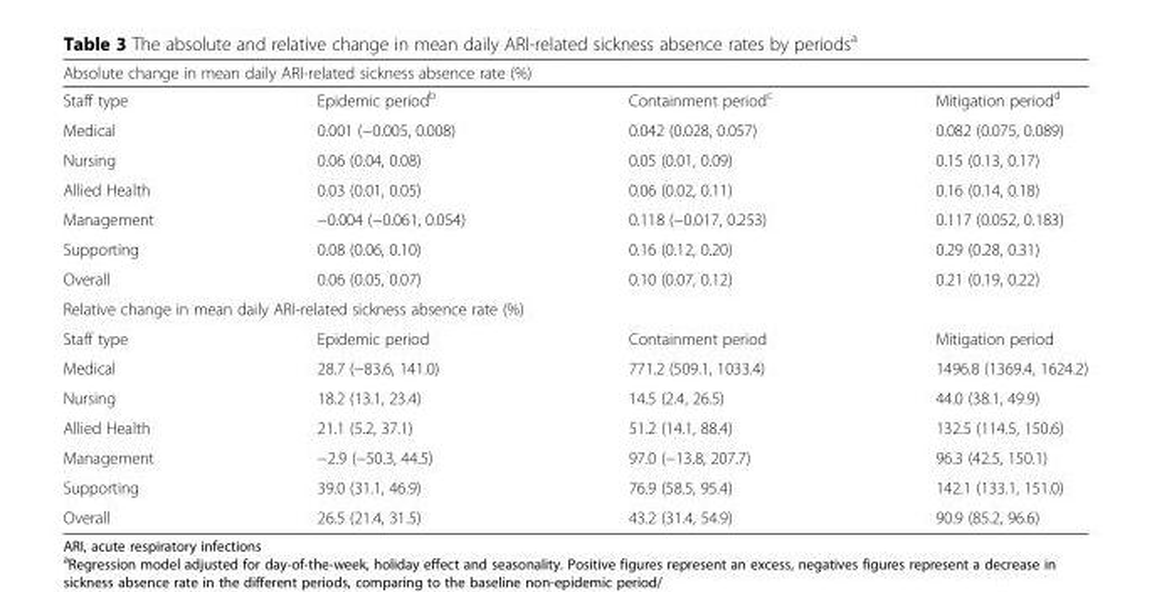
<table><thead><tr><td colspan="4">Absolute change in mean daily ARI-related sickness absence rate (%)</td></tr><tr><td>Staff type</td><td>Epidemic period<sup>b</sup></td><td>Containment period<sup>c</sup></td><td>Mitigation period<sup>d</sup></td></tr></thead><tbody><tr><td>Medical</td><td>0.001 (−0.005, 0.008)</td><td>0.042 (0.028, 0.057)</td><td>0.082 (0.075, 0.089)</td></tr><tr><td>Nursing</td><td>0.06 (0.04, 0.08)</td><td>0.05 (0.01, 0.09)</td><td>0.15 (0.13, 0.17)</td></tr><tr><td>Allied Health</td><td>0.03 (0.01, 0.05)</td><td>0.06 (0.02, 0.11)</td><td>0.16 (0.14, 0.18)</td></tr><tr><td>Management</td><td>−0.004 (−0.061, 0.054)</td><td>0.118 (−0.017, 0.253)</td><td>0.117 (0.052, 0.183)</td></tr><tr><td>Supporting</td><td>0.08 (0.06, 0.10)</td><td>0.16 (0.12, 0.20)</td><td>0.29 (0.28, 0.31)</td></tr><tr><td>Overall</td><td>0.06 (0.05, 0.07)</td><td>0.10 (0.07, 0.12)</td><td>0.21 (0.19, 0.22)</td></tr><tr><td colspan="4">Relative change in mean daily ARI-related sickness absence rate (%)</td></tr><tr><td>Staff type</td><td>Epidemic period</td><td>Containment period</td><td>Mitigation period</td></tr><tr><td>Medical</td><td>28.7 (−83.6, 141.0)</td><td>771.2 (509.1, 1033.4)</td><td>1496.8 (1369.4, 1624.2)</td></tr><tr><td>Nursing</td><td>18.2 (13.1, 23.4)</td><td>14.5 (2.4, 26.5)</td><td>44.0 (38.1, 49.9)</td></tr><tr><td>Allied Health</td><td>21.1 (5.2, 37.1)</td><td>51.2 (14.1, 88.4)</td><td>132.5 (114.5, 150.6)</td></tr><tr><td>Management</td><td>−2.9 (−50.3, 44.5)</td><td>97.0 (−13.8, 207.7)</td><td>96.3 (42.5, 150.1)</td></tr><tr><td>Supporting</td><td>39.0 (31.1, 46.9)</td><td>76.9 (58.5, 95.4)</td><td>142.1 (133.1, 151.0)</td></tr><tr><td>Overall</td><td>26.5 (21.4, 31.5)</td><td>43.2 (31.4, 54.9)</td><td>90.9 (85.2, 96.6)</td></tr></tbody></table>